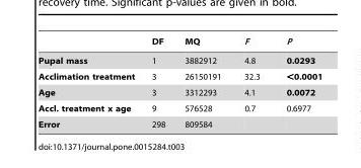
<table><thead><tr><td></td><td>DF</td><td>MQ</td><td>F</td><td>P</td></tr></thead><tbody><tr><td>Pupal mass</td><td>1</td><td>3882912</td><td>4.8</td><td>0.0293</td></tr><tr><td>Acclimation treatment</td><td>3</td><td>26150191</td><td>32.3</td><td>&lt;0.0001</td></tr><tr><td>Age</td><td>3</td><td>3312293</td><td>4.1</td><td>0.0072</td></tr><tr><td>Accl. treatment x age</td><td>9</td><td>576528</td><td>0.7</td><td>0.6977</td></tr><tr><td>Error</td><td>298</td><td>809584</td><td></td><td></td></tr></tbody></table>